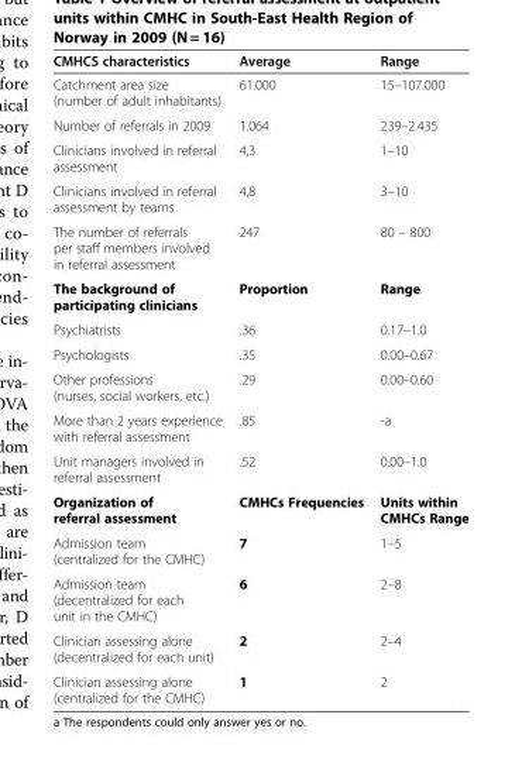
<table><thead><tr><td>CMHCS characteristics</td><td>Average</td><td>Range</td></tr></thead><tbody><tr><td>Catchment area size (number of adult inhabitants)</td><td>61.000</td><td>15–107.000</td></tr><tr><td>Number of referrals in 2009</td><td>1.064</td><td>239–2.435</td></tr><tr><td>Clinicians involved in referral assessment</td><td>4,3</td><td>1–10</td></tr><tr><td>Clinicians involved in referral assessment by teams</td><td>4,8</td><td>3–10</td></tr><tr><td>The number of referrals per staff members involved in referral assessment</td><td>247</td><td>80 – 800</td></tr><tr><td>The background of participating clinicians</td><td>Proportion</td><td>Range</td></tr><tr><td>Psychiatrists</td><td>.36</td><td>0.17–1.0</td></tr><tr><td>Psychologists</td><td>.35</td><td>0.00–0.67</td></tr><tr><td>Other professions (nurses, social workers, etc.)</td><td>.29</td><td>0.00–0.60</td></tr><tr><td>More than 2 years experience with referral assessment</td><td>.85</td><td>-a</td></tr><tr><td>Unit managers involved in referral assessment</td><td>.52</td><td>0.00–1.0</td></tr><tr><td>Organization of referral assessment</td><td>CMHCs Frequencies</td><td>Units within CMHCs Range</td></tr><tr><td>Admission team (centralized for the CMHC)</td><td>7</td><td>1–5</td></tr><tr><td>Admission team (decentralized for each unit in the CMHC)</td><td>6</td><td>2–8</td></tr><tr><td>Clinician assessing alone (decentralized for each unit)</td><td>2</td><td>2–4</td></tr><tr><td>Clinician assessing alone (centralized for the CMHC)</td><td>1</td><td>2</td></tr></tbody></table>